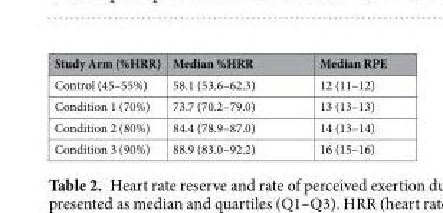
<table><thead><tr><td>Study Arm (%HRR)</td><td>Median %HRR</td><td>Median RPE</td></tr></thead><tbody><tr><td>Control (45–55%)</td><td>58.1 (53.6–62.3)</td><td>12 (11–12)</td></tr><tr><td>Condition 1 (70%)</td><td>73.7 (70.2–79.0)</td><td>13 (13–13)</td></tr><tr><td>Condition 2 (80%)</td><td>84.4 (78.9–87.0)</td><td>14 (13–14)</td></tr><tr><td>Condition 3 (90%)</td><td>88.9 (83.0–92.2)</td><td>16 (15–16)</td></tr></tbody></table>